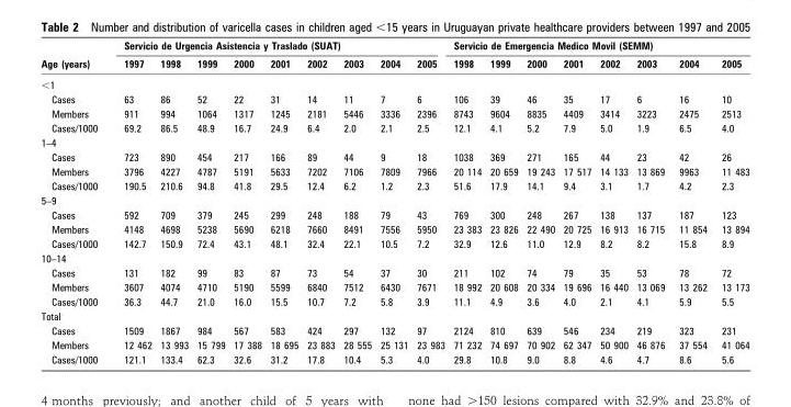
<table><thead><tr><td rowspan="2">Age (years)</td><td colspan="9">Servicio de Urgencia Asistencia y Traslado (SUAT)</td><td colspan="8">Servicio de Emergencia Medico Movil (SEMM)</td></tr><tr><td>1997</td><td>1998</td><td>1999</td><td>2000</td><td>2001</td><td>2002</td><td>2003</td><td>2004</td><td>2005</td><td>1998</td><td>1999</td><td>2000</td><td>2001</td><td>2002</td><td>2003</td><td>2004</td><td>2005</td></tr></thead><tbody><tr><td colspan="18">&lt;1</td></tr><tr><td>Cases</td><td>63</td><td>86</td><td>52</td><td>22</td><td>31</td><td>14</td><td>11</td><td>7</td><td>6</td><td>106</td><td>39</td><td>46</td><td>35</td><td>17</td><td>6</td><td>16</td><td>10</td></tr><tr><td>Members</td><td>911</td><td>994</td><td>1064</td><td>1317</td><td>1245</td><td>2181</td><td>5446</td><td>3336</td><td>2396</td><td>8743</td><td>9604</td><td>8835</td><td>4409</td><td>3414</td><td>3223</td><td>2475</td><td>2513</td></tr><tr><td>Cases/1000</td><td>69.2</td><td>86.5</td><td>48.9</td><td>16.7</td><td>24.9</td><td>6.4</td><td>2.0</td><td>2.1</td><td>2.5</td><td>12.1</td><td>4.1</td><td>5.2</td><td>7.9</td><td>5.0</td><td>1.9</td><td>6.5</td><td>4.0</td></tr><tr><td colspan="18">1–4</td></tr><tr><td>Cases</td><td>723</td><td>890</td><td>454</td><td>217</td><td>166</td><td>89</td><td>44</td><td>9</td><td>18</td><td>1038</td><td>369</td><td>271</td><td>165</td><td>44</td><td>23</td><td>42</td><td>26</td></tr><tr><td>Members</td><td>3796</td><td>4227</td><td>4787</td><td>5191</td><td>5633</td><td>7202</td><td>7106</td><td>7809</td><td>7966</td><td>20 114</td><td>20 659</td><td>19 243</td><td>17 517</td><td>14 133</td><td>13 869</td><td>9963</td><td>11 483</td></tr><tr><td>Cases/1000</td><td>190.5</td><td>210.6</td><td>94.8</td><td>41.8</td><td>29.5</td><td>12.4</td><td>6.2</td><td>1.2</td><td>2.3</td><td>51.6</td><td>17.9</td><td>14.1</td><td>9.4</td><td>3.1</td><td>1.7</td><td>4.2</td><td>2.3</td></tr><tr><td colspan="18">5–9</td></tr><tr><td>Cases</td><td>592</td><td>709</td><td>379</td><td>245</td><td>299</td><td>248</td><td>188</td><td>79</td><td>43</td><td>769</td><td>300</td><td>248</td><td>267</td><td>138</td><td>137</td><td>187</td><td>123</td></tr><tr><td>Members</td><td>4148</td><td>4698</td><td>5238</td><td>5690</td><td>6218</td><td>7660</td><td>8491</td><td>7556</td><td>5950</td><td>23 383</td><td>23 826</td><td>22 490</td><td>20 725</td><td>16 913</td><td>16 715</td><td>11 854</td><td>13 894</td></tr><tr><td>Cases/1000</td><td>142.7</td><td>150.9</td><td>72.4</td><td>43.1</td><td>48.1</td><td>32.4</td><td>22.1</td><td>10.5</td><td>7.2</td><td>32.9</td><td>12.6</td><td>11.0</td><td>12.9</td><td>8.2</td><td>8.2</td><td>15.8</td><td>8.9</td></tr><tr><td colspan="18">10–14</td></tr><tr><td>Cases</td><td>131</td><td>182</td><td>99</td><td>83</td><td>87</td><td>73</td><td>54</td><td>37</td><td>30</td><td>211</td><td>102</td><td>74</td><td>79</td><td>35</td><td>53</td><td>78</td><td>72</td></tr><tr><td>Members</td><td>3607</td><td>4074</td><td>4710</td><td>5190</td><td>5599</td><td>6840</td><td>7512</td><td>6430</td><td>7671</td><td>18 992</td><td>20 608</td><td>20 334</td><td>19 696</td><td>16 440</td><td>13 069</td><td>13 262</td><td>13 173</td></tr><tr><td>Cases/1000</td><td>36.3</td><td>44.7</td><td>21.0</td><td>16.0</td><td>15.5</td><td>10.7</td><td>7.2</td><td>5.8</td><td>3.9</td><td>11.1</td><td>4.9</td><td>3.6</td><td>4.0</td><td>2.1</td><td>4.1</td><td>5.9</td><td>5.5</td></tr><tr><td colspan="18">Total</td></tr><tr><td>Cases</td><td>1509</td><td>1867</td><td>984</td><td>567</td><td>583</td><td>424</td><td>297</td><td>132</td><td>97</td><td>2124</td><td>810</td><td>639</td><td>546</td><td>234</td><td>219</td><td>323</td><td>231</td></tr><tr><td>Members</td><td>12 462</td><td>13 993</td><td>15 799</td><td>17 388</td><td>18 695</td><td>23 883</td><td>28 555</td><td>25 131</td><td>23 983</td><td>71 232</td><td>74 697</td><td>70 902</td><td>62 347</td><td>50 900</td><td>46 876</td><td>37 554</td><td>41 064</td></tr><tr><td>Cases/1000</td><td>121.1</td><td>133.4</td><td>62.3</td><td>32.6</td><td>31.2</td><td>17.8</td><td>10.4</td><td>5.3</td><td>4.0</td><td>29.8</td><td>10.8</td><td>9.0</td><td>8.8</td><td>4.6</td><td>4.7</td><td>8.6</td><td>5.6</td></tr></tbody></table>